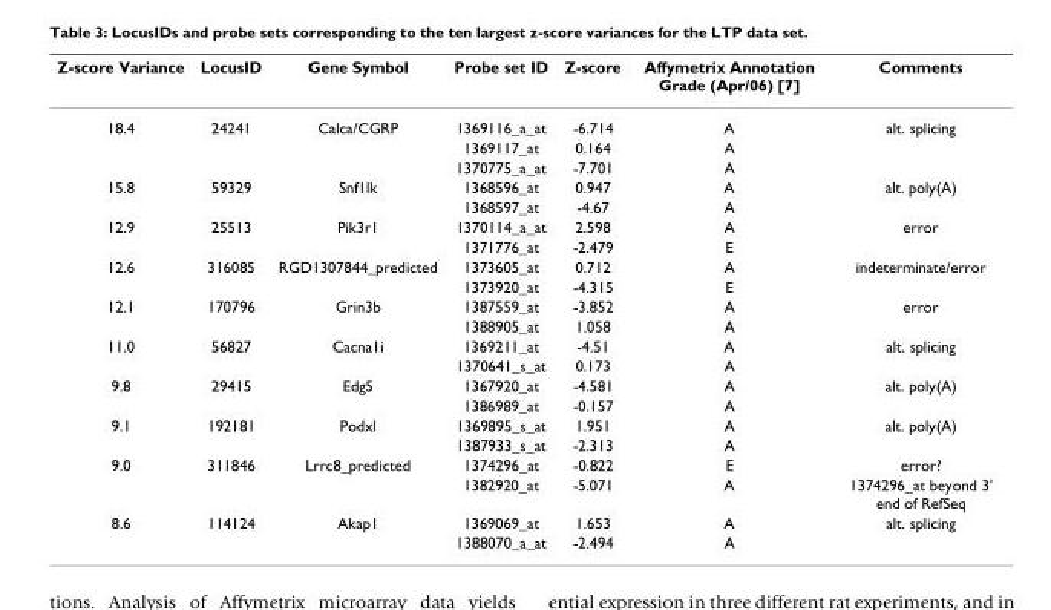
<table><thead><tr><td>Z-score Variance</td><td>LocusID</td><td>Gene Symbol</td><td>Probe set ID</td><td>Z-score</td><td>Affymetrix Annotation Grade (Apr/06) [7]</td><td>Comments</td></tr></thead><tbody><tr><td rowspan="3">18.4</td><td>24241</td><td>Calca/CGRP</td><td>1369116_a_at</td><td>-6.714</td><td>A</td><td>alt. splicing</td></tr><tr><td></td><td></td><td>1369117_at</td><td>0.164</td><td>A</td><td></td></tr><tr><td></td><td></td><td>1370775_a_at</td><td>-7.701</td><td>A</td><td></td></tr><tr><td rowspan="2">15.8</td><td>59329</td><td>Snf1lk</td><td>1368596_at</td><td>0.947</td><td>A</td><td>alt. poly(A)</td></tr><tr><td></td><td></td><td>1368597_at</td><td>-4.67</td><td>A</td><td></td></tr><tr><td rowspan="2">12.9</td><td>25513</td><td>Pik3r1</td><td>1370114_a_at</td><td>2.598</td><td>A</td><td>error</td></tr><tr><td></td><td></td><td>1371776_at</td><td>-2.479</td><td>E</td><td></td></tr><tr><td rowspan="2">12.6</td><td>316085</td><td>RGD1307844_predicted</td><td>1373605_at</td><td>0.712</td><td>A</td><td>indeterminate/error</td></tr><tr><td></td><td></td><td>1373920_at</td><td>-4.315</td><td>E</td><td></td></tr><tr><td rowspan="2">12.1</td><td>170796</td><td>Grin3b</td><td>1387559_at</td><td>-3.852</td><td>A</td><td>error</td></tr><tr><td></td><td></td><td>1388905_at</td><td>1.058</td><td>A</td><td></td></tr><tr><td rowspan="2">11.0</td><td>56827</td><td>Cacna1i</td><td>1369211_at</td><td>-4.51</td><td>A</td><td>alt. splicing</td></tr><tr><td></td><td></td><td>1370641_s_at</td><td>0.173</td><td>A</td><td></td></tr><tr><td rowspan="2">9.8</td><td>29415</td><td>Edg5</td><td>1367920_at</td><td>-4.581</td><td>A</td><td>alt. poly(A)</td></tr><tr><td></td><td></td><td>1386989_at</td><td>-0.157</td><td>A</td><td></td></tr><tr><td rowspan="2">9.1</td><td>192181</td><td>Podxl</td><td>1369895_s_at</td><td>1.951</td><td>A</td><td>alt. poly(A)</td></tr><tr><td></td><td></td><td>1387933_s_at</td><td>-2.313</td><td>A</td><td></td></tr><tr><td rowspan="2">9.0</td><td>311846</td><td>Lrrc8_predicted</td><td>1374296_at</td><td>-0.822</td><td>E</td><td>error?</td></tr><tr><td></td><td></td><td>1382920_at</td><td>-5.071</td><td>A</td><td>1374296_at beyond 3&#x27; end of RefSeq</td></tr><tr><td rowspan="2">8.6</td><td>114124</td><td>Akap1</td><td>1369069_at</td><td>1.653</td><td>A</td><td>alt. splicing</td></tr><tr><td></td><td></td><td>1388070_a_at</td><td>-2.494</td><td>A</td><td></td></tr></tbody></table>